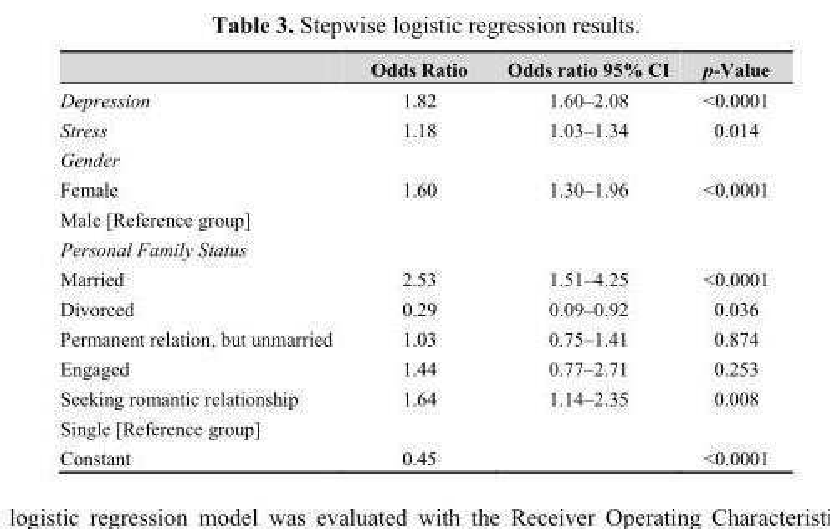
<table><thead><tr><td></td><td>Odds Ratio</td><td>Odds ratio 95% CI</td><td>p-Value</td></tr></thead><tbody><tr><td>Depression</td><td>1.82</td><td>1.60–2.08</td><td>&lt;0.0001</td></tr><tr><td>Stress</td><td>1.18</td><td>1.03–1.34</td><td>0.014</td></tr><tr><td colspan="4">Gender</td></tr><tr><td>Female</td><td>1.60</td><td>1.30–1.96</td><td>&lt;0.0001</td></tr><tr><td colspan="4">Male [Reference group]</td></tr><tr><td colspan="4">Personal Family Status</td></tr><tr><td>Married</td><td>2.53</td><td>1.51–4.25</td><td>&lt;0.0001</td></tr><tr><td>Divorced</td><td>0.29</td><td>0.09–0.92</td><td>0.036</td></tr><tr><td>Permanent relation, but unmarried</td><td>1.03</td><td>0.75–1.41</td><td>0.874</td></tr><tr><td>Engaged</td><td>1.44</td><td>0.77–2.71</td><td>0.253</td></tr><tr><td>Seeking romantic relationship</td><td>1.64</td><td>1.14–2.35</td><td>0.008</td></tr><tr><td colspan="4">Single [Reference group]</td></tr><tr><td>Constant</td><td>0.45</td><td></td><td>&lt;0.0001</td></tr></tbody></table>